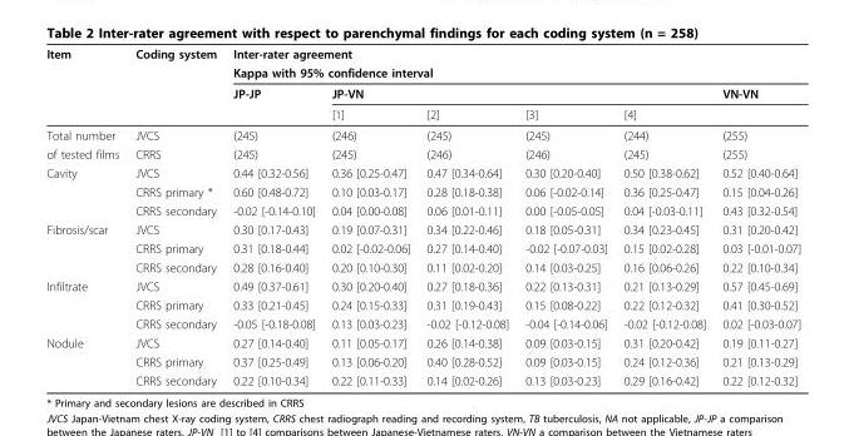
<table><thead><tr><td rowspan="4">Item</td><td rowspan="4">Coding system</td><td rowspan="2" colspan="6">Inter-rater agreement Kappa with 95% confidence interval</td></tr><tr></tr><tr><td rowspan="2">JP-JP</td><td rowspan="2">JP-VN [1]</td><td rowspan="2">[2]</td><td rowspan="2">[3]</td><td rowspan="2">[4]</td><td rowspan="2">VN-VN</td></tr><tr></tr></thead><tbody><tr><td>Total number</td><td>JVCS</td><td>(245)</td><td>(246)</td><td>(245)</td><td>(245)</td><td>(244)</td><td>(255)</td></tr><tr><td>of tested films</td><td>CRRS</td><td>(245)</td><td>(245)</td><td>(246)</td><td>(246)</td><td>(245)</td><td>(255)</td></tr><tr><td rowspan="3">Cavity</td><td>JVCS</td><td>0.44 [0.32-0.56]</td><td>0.36 [0.25-0.47]</td><td>0.47 [0.34-0.64]</td><td>0.30 [0.20-0.40]</td><td>0.50 [0.38-0.62]</td><td>0.52 [0.40-0.64]</td></tr><tr><td>CRRS primary *</td><td>0.60 [0.48-0.72]</td><td>0.10 [0.03-0.17]</td><td>0.28 [0.18-0.38]</td><td>0.06 [-0.02-0.14]</td><td>0.36 [0.25-0.47]</td><td>0.15 [0.04-0.26]</td></tr><tr><td>CRRS secondary</td><td>-0.02 [-0.14-0.10]</td><td>0.04 [0.00-0.08]</td><td>0.06 [0.01-0.11]</td><td>0.00 [-0.05-0.05]</td><td>0.04 [-0.03-0.11]</td><td>0.43 [0.32-0.54]</td></tr><tr><td rowspan="3">Fibrosis/scar</td><td>JVCS</td><td>0.30 [0.17-0.43]</td><td>0.19 [0.07-0.31]</td><td>0.34 [0.22-0.46]</td><td>0.18 [0.05-0.31]</td><td>0.34 [0.23-0.45]</td><td>0.31 [0.20-0.42]</td></tr><tr><td>CRRS primary</td><td>0.31 [0.18-0.44]</td><td>0.02 [-0.02-0.06]</td><td>0.27 [0.14-0.40]</td><td>-0.02 [-0.07-0.03]</td><td>0.15 [0.02-0.28]</td><td>0.03 [-0.01-0.07]</td></tr><tr><td>CRRS secondary</td><td>0.28 [0.16-0.40]</td><td>0.20 [0.10-0.30]</td><td>0.11 [0.02-0.20]</td><td>0.14 [0.03-0.25]</td><td>0.16 [0.06-0.26]</td><td>0.22 [0.10-0.34]</td></tr><tr><td rowspan="3">Infiltrate</td><td>JVCS</td><td>0.49 [0.37-0.61]</td><td>0.30 [0.20-0.40]</td><td>0.27 [0.18-0.36]</td><td>0.22 [0.13-0.31]</td><td>0.21 [0.13-0.29]</td><td>0.57 [0.45-0.69]</td></tr><tr><td>CRRS primary</td><td>0.33 [0.21-0.45]</td><td>0.24 [0.15-0.33]</td><td>0.31 [0.19-0.43]</td><td>0.15 [0.08-0.22]</td><td>0.22 [0.12-0.32]</td><td>0.41 [0.30-0.52]</td></tr><tr><td>CRRS secondary</td><td>-0.05 [-0.18-0.08]</td><td>0.13 [0.03-0.23]</td><td>-0.02 [-0.12-0.08]</td><td>-0.04 [-0.14-0.06]</td><td>-0.02 [-0.12-0.08]</td><td>0.02 [-0.03-0.07]</td></tr><tr><td rowspan="3">Nodule</td><td>JVCS</td><td>0.27 [0.14-0.40]</td><td>0.11 [0.05-0.17]</td><td>0.26 [0.14-0.38]</td><td>0.09 [0.03-0.15]</td><td>0.31 [0.20-0.42]</td><td>0.19 [0.11-0.27]</td></tr><tr><td>CRRS primary</td><td>0.37 [0.25-0.49]</td><td>0.13 [0.06-0.20]</td><td>0.40 [0.28-0.52]</td><td>0.09 [0.03-0.15]</td><td>0.24 [0.12-0.36]</td><td>0.21 [0.13-0.29]</td></tr><tr><td>CRRS secondary</td><td>0.22 [0.10-0.34]</td><td>0.22 [0.11-0.33]</td><td>0.14 [0.02-0.26]</td><td>0.13 [0.03-0.23]</td><td>0.29 [0.16-0.42]</td><td>0.22 [0.12-0.32]</td></tr></tbody></table>